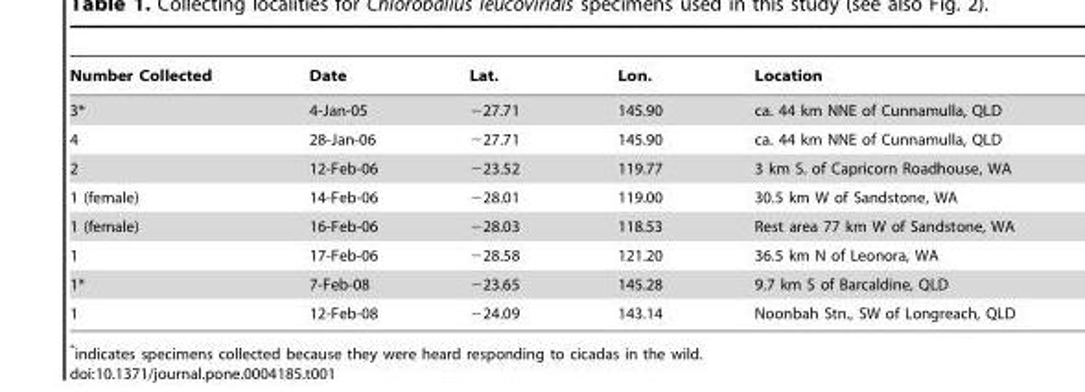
<table><thead><tr><td>Number Collected</td><td>Date</td><td>Lat.</td><td>Lon.</td><td>Location</td></tr></thead><tbody><tr><td>3*</td><td>4-Jan-05</td><td>−27.71</td><td>145.90</td><td>ca. 44 km NNE of Cunnamulla, QLD</td></tr><tr><td>4</td><td>28-Jan-06</td><td>−27.71</td><td>145.90</td><td>ca. 44 km NNE of Cunnamulla, QLD</td></tr><tr><td>2</td><td>12-Feb-06</td><td>−23.52</td><td>119.77</td><td>3 km S. of Capricorn Roadhouse, WA</td></tr><tr><td>1 (female)</td><td>14-Feb-06</td><td>−28.01</td><td>119.00</td><td>30.5 km W of Sandstone, WA</td></tr><tr><td>1 (female)</td><td>16-Feb-06</td><td>−28.03</td><td>118.53</td><td>Rest area 77 km W of Sandstone, WA</td></tr><tr><td>1</td><td>17-Feb-06</td><td>−28.58</td><td>121.20</td><td>36.5 km N of Leonora, WA</td></tr><tr><td>1*</td><td>7-Feb-08</td><td>−23.65</td><td>145.28</td><td>9.7 km S of Barcaldine, QLD</td></tr><tr><td>1</td><td>12-Feb-08</td><td>−24.09</td><td>143.14</td><td>Noonbah Stn., SW of Longreach, QLD</td></tr></tbody></table>